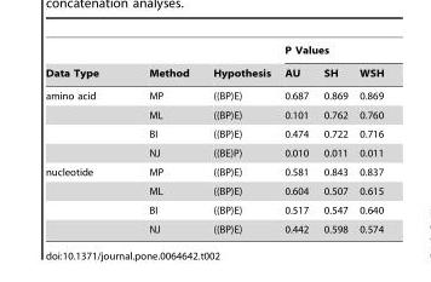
<table><thead><tr><td rowspan="2">Data Type</td><td rowspan="2">Method</td><td rowspan="2">Hypothesis</td><td colspan="3">P Values</td></tr><tr><td>AU</td><td>SH</td><td>WSH</td></tr></thead><tbody><tr><td rowspan="4">amino acid</td><td>MP</td><td>((BP)E)</td><td>0.687</td><td>0.869</td><td>0.869</td></tr><tr><td>ML</td><td>((BP)E)</td><td>0.101</td><td>0.762</td><td>0.760</td></tr><tr><td>BI</td><td>((BP)E)</td><td>0.474</td><td>0.722</td><td>0.716</td></tr><tr><td>NJ</td><td>((BE)P)</td><td>0.010</td><td>0.011</td><td>0.011</td></tr><tr><td rowspan="4">nucleotide</td><td>MP</td><td>((BP)E)</td><td>0.581</td><td>0.843</td><td>0.837</td></tr><tr><td>ML</td><td>((BP)E)</td><td>0.604</td><td>0.507</td><td>0.615</td></tr><tr><td>BI</td><td>((BP)E)</td><td>0.517</td><td>0.547</td><td>0.640</td></tr><tr><td>NJ</td><td>((BP)E)</td><td>0.442</td><td>0.598</td><td>0.574</td></tr></tbody></table>